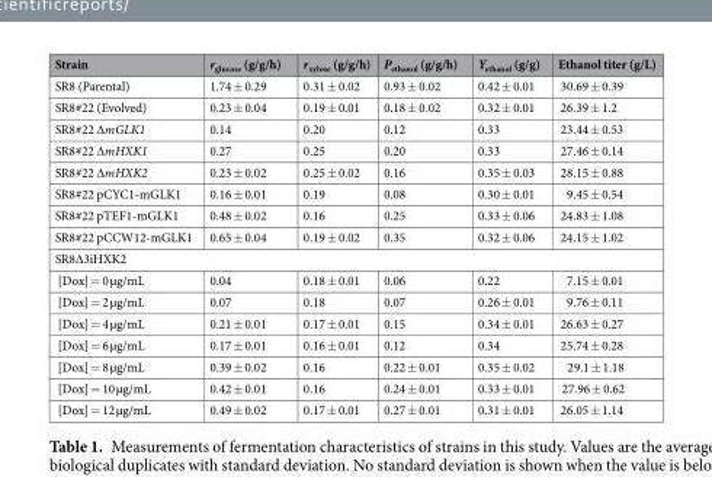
<table><thead><tr><td>Strain</td><td>r<sub>glucose</sub> (g/g/h)</td><td>r<sub>xylose</sub> (g/g/h)</td><td>P<sub>ethanol</sub> (g/g/h)</td><td>Y<sub>ethanol</sub> (g/g)</td><td>Ethanol titer (g/L)</td></tr></thead><tbody><tr><td>SR8 (Parental)</td><td>1.74 ± 0.29</td><td>0.31 ± 0.02</td><td>0.93 ± 0.02</td><td>0.42 ± 0.01</td><td>30.69 ± 0.39</td></tr><tr><td>SR8#22 (Evolved)</td><td>0.23 ± 0.04</td><td>0.19 ± 0.01</td><td>0.18 ± 0.02</td><td>0.32 ± 0.01</td><td>26.39 ± 1.2</td></tr><tr><td>SR8#22 ∆mGLK1</td><td>0.14</td><td>0.20</td><td>0.12</td><td>0.33</td><td>23.44 ± 0.53</td></tr><tr><td>SR8#22 ∆mHXK1</td><td>0.27</td><td>0.25</td><td>0.20</td><td>0.33</td><td>27.46 ± 0.14</td></tr><tr><td>SR8#22 ∆mHXK2</td><td>0.23 ± 0.02</td><td>0.25 ± 0.02</td><td>0.16</td><td>0.35 ± 0.03</td><td>28.15 ± 0.88</td></tr><tr><td>SR8#22 pCYC1-mGLK1</td><td>0.16 ± 0.01</td><td>0.19</td><td>0.08</td><td>0.30 ± 0.01</td><td>9.45 ± 0.54</td></tr><tr><td>SR8#22 pTEF1-mGLK1</td><td>0.48 ± 0.02</td><td>0.16</td><td>0.25</td><td>0.33 ± 0.06</td><td>24.83 ± 1.08</td></tr><tr><td>SR8#22 pCCW12-mGLK1</td><td>0.65 ± 0.04</td><td>0.19 ± 0.02</td><td>0.35</td><td>0.32 ± 0.06</td><td>24.15 ± 1.02</td></tr><tr><td colspan="6">SR8∆3iHXK2</td></tr><tr><td>[Dox] = 0 µg/mL</td><td>0.04</td><td>0.18 ± 0.01</td><td>0.06</td><td>0.22</td><td>7.15 ± 0.01</td></tr><tr><td>[Dox] = 2 µg/mL</td><td>0.07</td><td>0.18</td><td>0.07</td><td>0.26 ± 0.01</td><td>9.76 ± 0.11</td></tr><tr><td>[Dox] = 4 µg/mL</td><td>0.21 ± 0.01</td><td>0.17 ± 0.01</td><td>0.15</td><td>0.34 ± 0.01</td><td>26.63 ± 0.27</td></tr><tr><td>[Dox] = 6 µg/mL</td><td>0.17 ± 0.01</td><td>0.16 ± 0.01</td><td>0.12</td><td>0.34</td><td>25.74 ± 0.28</td></tr><tr><td>[Dox] = 8 µg/mL</td><td>0.39 ± 0.02</td><td>0.16</td><td>0.22 ± 0.01</td><td>0.35 ± 0.02</td><td>29.1 ± 1.18</td></tr><tr><td>[Dox] = 10 µg/mL</td><td>0.42 ± 0.01</td><td>0.16</td><td>0.24 ± 0.01</td><td>0.33 ± 0.01</td><td>27.96 ± 0.62</td></tr><tr><td>[Dox] = 12 µg/mL</td><td>0.49 ± 0.02</td><td>0.17 ± 0.01</td><td>0.27 ± 0.01</td><td>0.31 ± 0.01</td><td>26.05 ± 1.14</td></tr></tbody></table>